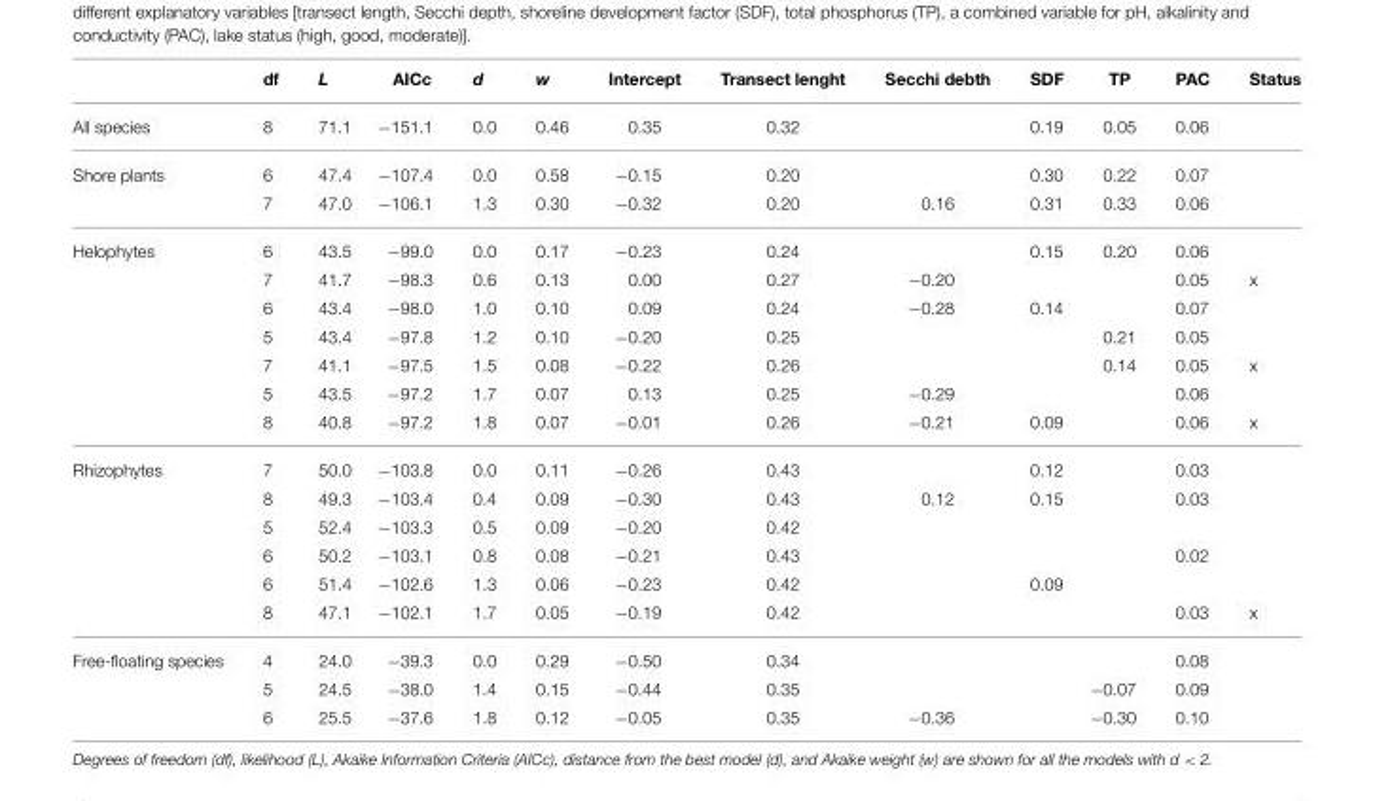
<table><thead><tr><td></td><td>df</td><td>L</td><td>AICc</td><td>d</td><td>w</td><td>Intercept</td><td>Transect lenght</td><td>Secchi debth</td><td>SDF</td><td>TP</td><td>PAC</td><td>Status</td></tr></thead><tbody><tr><td>All species</td><td>8</td><td>71.1</td><td>−151.1</td><td>0.0</td><td>0.46</td><td>0.35</td><td>0.32</td><td></td><td>0.19</td><td>0.05</td><td>0.06</td><td></td></tr><tr><td rowspan="2">Shore plants</td><td>6</td><td>47.4</td><td>−107.4</td><td>0.0</td><td>0.58</td><td>−0.15</td><td>0.20</td><td></td><td>0.30</td><td>0.22</td><td>0.07</td><td></td></tr><tr><td>7</td><td>47.0</td><td>−106.1</td><td>1.3</td><td>0.30</td><td>−0.32</td><td>0.20</td><td>0.16</td><td>0.31</td><td>0.33</td><td>0.06</td><td></td></tr><tr><td rowspan="7">Helophytes</td><td>6</td><td>43.5</td><td>−99.0</td><td>0.0</td><td>0.17</td><td>−0.23</td><td>0.24</td><td></td><td>0.15</td><td>0.20</td><td>0.06</td><td></td></tr><tr><td>7</td><td>41.7</td><td>−98.3</td><td>0.6</td><td>0.13</td><td>0.00</td><td>0.27</td><td>−0.20</td><td></td><td></td><td>0.05</td><td>x</td></tr><tr><td>6</td><td>43.4</td><td>−98.0</td><td>1.0</td><td>0.10</td><td>0.09</td><td>0.24</td><td>−0.28</td><td>0.14</td><td></td><td>0.07</td><td></td></tr><tr><td>5</td><td>43.4</td><td>−97.8</td><td>1.2</td><td>0.10</td><td>−0.20</td><td>0.25</td><td></td><td></td><td>0.21</td><td>0.05</td><td></td></tr><tr><td>7</td><td>41.1</td><td>−97.5</td><td>1.5</td><td>0.08</td><td>−0.22</td><td>0.26</td><td></td><td></td><td>0.14</td><td>0.05</td><td>x</td></tr><tr><td>5</td><td>43.5</td><td>−97.2</td><td>1.7</td><td>0.07</td><td>0.13</td><td>0.25</td><td>−0.29</td><td></td><td></td><td>0.06</td><td></td></tr><tr><td>8</td><td>40.8</td><td>−97.2</td><td>1.8</td><td>0.07</td><td>−0.01</td><td>0.26</td><td>−0.21</td><td>0.09</td><td></td><td>0.06</td><td>x</td></tr><tr><td rowspan="6">Rhizophytes</td><td>7</td><td>50.0</td><td>−103.8</td><td>0.0</td><td>0.11</td><td>−0.26</td><td>0.43</td><td></td><td>0.12</td><td></td><td>0.03</td><td></td></tr><tr><td>8</td><td>49.3</td><td>−103.4</td><td>0.4</td><td>0.09</td><td>−0.30</td><td>0.43</td><td>0.12</td><td>0.15</td><td></td><td>0.03</td><td></td></tr><tr><td>5</td><td>52.4</td><td>−103.3</td><td>0.5</td><td>0.09</td><td>−0.20</td><td>0.42</td><td></td><td></td><td></td><td></td><td></td></tr><tr><td>6</td><td>50.2</td><td>−103.1</td><td>0.8</td><td>0.08</td><td>−0.21</td><td>0.43</td><td></td><td></td><td></td><td>0.02</td><td></td></tr><tr><td>6</td><td>51.4</td><td>−102.6</td><td>1.3</td><td>0.06</td><td>−0.23</td><td>0.42</td><td></td><td>0.09</td><td></td><td></td><td></td></tr><tr><td>8</td><td>47.1</td><td>−102.1</td><td>1.7</td><td>0.05</td><td>−0.19</td><td>0.42</td><td></td><td></td><td></td><td>0.03</td><td>x</td></tr><tr><td rowspan="3">Free-floating species</td><td>4</td><td>24.0</td><td>−39.3</td><td>0.0</td><td>0.29</td><td>−0.50</td><td>0.34</td><td></td><td></td><td></td><td>0.08</td><td></td></tr><tr><td>5</td><td>24.5</td><td>−38.0</td><td>1.4</td><td>0.15</td><td>−0.44</td><td>0.35</td><td></td><td></td><td>−0.07</td><td>0.09</td><td></td></tr><tr><td>6</td><td>25.5</td><td>−37.6</td><td>1.8</td><td>0.12</td><td>−0.05</td><td>0.35</td><td>−0.36</td><td></td><td>−0.30</td><td>0.10</td><td></td></tr></tbody></table>